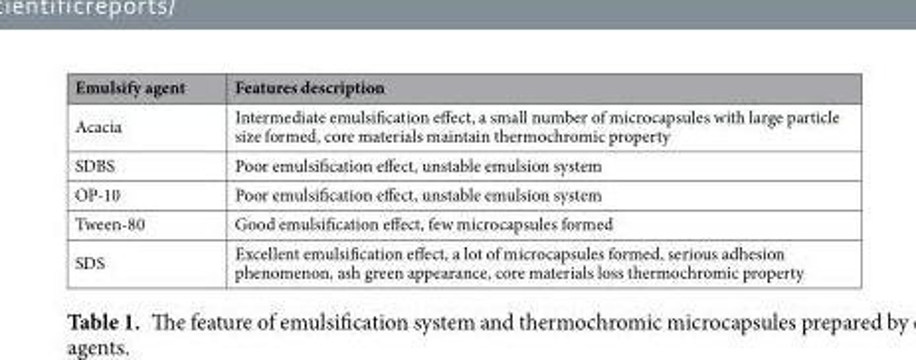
<table><thead><tr><td>Emulsify agent</td><td>Features description</td></tr></thead><tbody><tr><td>Acacia</td><td>Intermediate emulsification effect, a small number of microcapsules with large particle size formed, core materials maintain thermochromic property</td></tr><tr><td>SDBS</td><td>Poor emulsification effect, unstable emulsion system</td></tr><tr><td>OP-10</td><td>Poor emulsification effect, unstable emulsion system</td></tr><tr><td>Tween-80</td><td>Good emulsification effect, few microcapsules formed</td></tr><tr><td>SDS</td><td>Excellent emulsification effect, a lot of microcapsules formed, serious adhesion phenomenon, ash green appearance, core materials loss thermochromic property</td></tr></tbody></table>